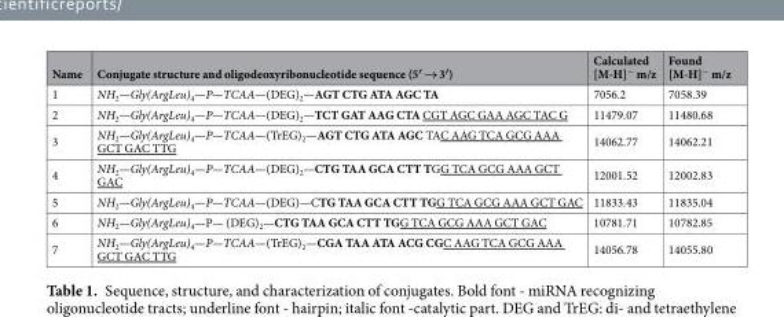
<table><thead><tr><td>Name</td><td>Conjugate structure and oligodeoxyribonucleotide sequence (5′ → 3′)</td><td>Calculated [M-H]<sup>−</sup> m/z</td><td>Found [M-H]<sup>−</sup> m/z</td></tr></thead><tbody><tr><td>1</td><td>NH<sub>2</sub>—Gly(ArgLeu)<sub>4</sub>—P—TCAA—(DEG)<sub>2</sub>—AGT CTG ATA AGC TA</td><td>7056.2</td><td>7058.39</td></tr><tr><td>2</td><td>NH<sub>2</sub>—Gly(ArgLeu)<sub>4</sub>—P—TCAA—(DEG)<sub>2</sub>—TCT GAT AAG CTA CGT AGC GAA AGC TAC G</td><td>11479.07</td><td>11480.68</td></tr><tr><td>3</td><td>NH<sub>2</sub>—Gly(ArgLeu)<sub>4</sub>—P—TCAA—(TrEG)<sub>2</sub>—AGT CTG ATA AGC TAC AAG TCA GCG AAA GCT GAC TTG</td><td>14062.77</td><td>14062.21</td></tr><tr><td>4</td><td>NH<sub>2</sub>—Gly(ArgLeu)<sub>4</sub>—P—TCAA—(DEG)<sub>2</sub>—CTG TAA GCA CTT TGG TCA GCG AAA GCT GAC</td><td>12001.52</td><td>12002.83</td></tr><tr><td>5</td><td>NH<sub>2</sub>—Gly(ArgLeu)<sub>4</sub>—P—TCAA—(DEG)—CTG TAA GCA CTT TGG TCA GCG AAA GCT GAC</td><td>11833.43</td><td>11835.04</td></tr><tr><td>6</td><td>NH<sub>2</sub>—Gly(ArgLeu)<sub>4</sub>—P— (DEG)<sub>2</sub>—CTG TAA GCA CTT TGG TCA GCG AAA GCT GAC</td><td>10781.71</td><td>10782.85</td></tr><tr><td>7</td><td>NH<sub>2</sub>—Gly(ArgLeu)<sub>4</sub>—P—TCAA—(TrEG)<sub>2</sub>—CGA TAA ATA ACG CGC AAG TCA GCG AAA GCT GAC TTG</td><td>14056.78</td><td>14055.80</td></tr></tbody></table>